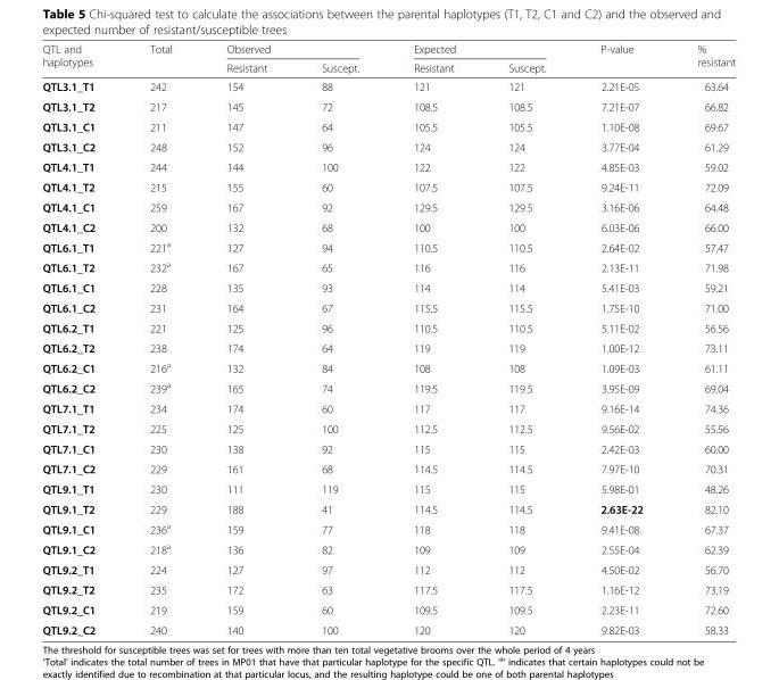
<table><thead><tr><td rowspan="2">QTL and haplotypes</td><td rowspan="2">Total</td><td colspan="2">Observed</td><td colspan="2">Expected</td><td rowspan="2">P-value</td><td rowspan="2">% resistant</td></tr><tr><td>Resistant</td><td>Suscept.</td><td>Resistant</td><td>Suscept.</td></tr></thead><tbody><tr><td>QTL3.1_T1</td><td>242</td><td>154</td><td>88</td><td>121</td><td>121</td><td>2.21E-05</td><td>63.64</td></tr><tr><td>QTL3.1_T2</td><td>217</td><td>145</td><td>72</td><td>108.5</td><td>108.5</td><td>7.21E-07</td><td>66.82</td></tr><tr><td>QTL3.1_C1</td><td>211</td><td>147</td><td>64</td><td>105.5</td><td>105.5</td><td>1.10E-08</td><td>69.67</td></tr><tr><td>QTL3.1_C2</td><td>248</td><td>152</td><td>96</td><td>124</td><td>124</td><td>3.77E-04</td><td>61.29</td></tr><tr><td>QTL4.1_T1</td><td>244</td><td>144</td><td>100</td><td>122</td><td>122</td><td>4.85E-03</td><td>59.02</td></tr><tr><td>QTL4.1_T2</td><td>215</td><td>155</td><td>60</td><td>107.5</td><td>107.5</td><td>9.24E-11</td><td>72.09</td></tr><tr><td>QTL4.1_C1</td><td>259</td><td>167</td><td>92</td><td>129.5</td><td>129.5</td><td>3.16E-06</td><td>64.48</td></tr><tr><td>QTL4.1_C2</td><td>200</td><td>132</td><td>68</td><td>100</td><td>100</td><td>6.03E-06</td><td>66.00</td></tr><tr><td>QTL6.1_T1</td><td>221<sup>a</sup></td><td>127</td><td>94</td><td>110.5</td><td>110.5</td><td>2.64E-02</td><td>57.47</td></tr><tr><td>QTL6.1_T2</td><td>232<sup>a</sup></td><td>167</td><td>65</td><td>116</td><td>116</td><td>2.13E-11</td><td>71.98</td></tr><tr><td>QTL6.1_C1</td><td>228</td><td>135</td><td>93</td><td>114</td><td>114</td><td>5.41E-03</td><td>59.21</td></tr><tr><td>QTL6.1_C2</td><td>231</td><td>164</td><td>67</td><td>115.5</td><td>115.5</td><td>1.75E-10</td><td>71.00</td></tr><tr><td>QTL6.2_T1</td><td>221</td><td>125</td><td>96</td><td>110.5</td><td>110.5</td><td>5.11E-02</td><td>56.56</td></tr><tr><td>QTL6.2_T2</td><td>238</td><td>174</td><td>64</td><td>119</td><td>119</td><td>1.00E-12</td><td>73.11</td></tr><tr><td>QTL6.2_C1</td><td>216<sup>a</sup></td><td>132</td><td>84</td><td>108</td><td>108</td><td>1.09E-03</td><td>61.11</td></tr><tr><td>QTL6.2_C2</td><td>239<sup>a</sup></td><td>165</td><td>74</td><td>119.5</td><td>119.5</td><td>3.95E-09</td><td>69.04</td></tr><tr><td>QTL7.1_T1</td><td>234</td><td>174</td><td>60</td><td>117</td><td>117</td><td>9.16E-14</td><td>74.36</td></tr><tr><td>QTL7.1_T2</td><td>225</td><td>125</td><td>100</td><td>112.5</td><td>112.5</td><td>9.56E-02</td><td>55.56</td></tr><tr><td>QTL7.1_C1</td><td>230</td><td>138</td><td>92</td><td>115</td><td>115</td><td>2.42E-03</td><td>60.00</td></tr><tr><td>QTL7.1_C2</td><td>229</td><td>161</td><td>68</td><td>114.5</td><td>114.5</td><td>7.97E-10</td><td>70.31</td></tr><tr><td>QTL9.1_T1</td><td>230</td><td>111</td><td>119</td><td>115</td><td>115</td><td>5.98E-01</td><td>48.26</td></tr><tr><td>QTL9.1_T2</td><td>229</td><td>188</td><td>41</td><td>114.5</td><td>114.5</td><td>2.63E-22</td><td>82.10</td></tr><tr><td>QTL9.1_C1</td><td>236<sup>a</sup></td><td>159</td><td>77</td><td>118</td><td>118</td><td>9.41E-08</td><td>67.37</td></tr><tr><td>QTL9.1_C2</td><td>218<sup>a</sup></td><td>136</td><td>82</td><td>109</td><td>109</td><td>2.55E-04</td><td>62.39</td></tr><tr><td>QTL9.2_T1</td><td>224</td><td>127</td><td>97</td><td>112</td><td>112</td><td>4.50E-02</td><td>56.70</td></tr><tr><td>QTL9.2_T2</td><td>235</td><td>172</td><td>63</td><td>117.5</td><td>117.5</td><td>1.16E-12</td><td>73.19</td></tr><tr><td>QTL9.2_C1</td><td>219</td><td>159</td><td>60</td><td>109.5</td><td>109.5</td><td>2.23E-11</td><td>72.60</td></tr><tr><td>QTL9.2_C2</td><td>240</td><td>140</td><td>100</td><td>120</td><td>120</td><td>9.82E-03</td><td>58.33</td></tr></tbody></table>